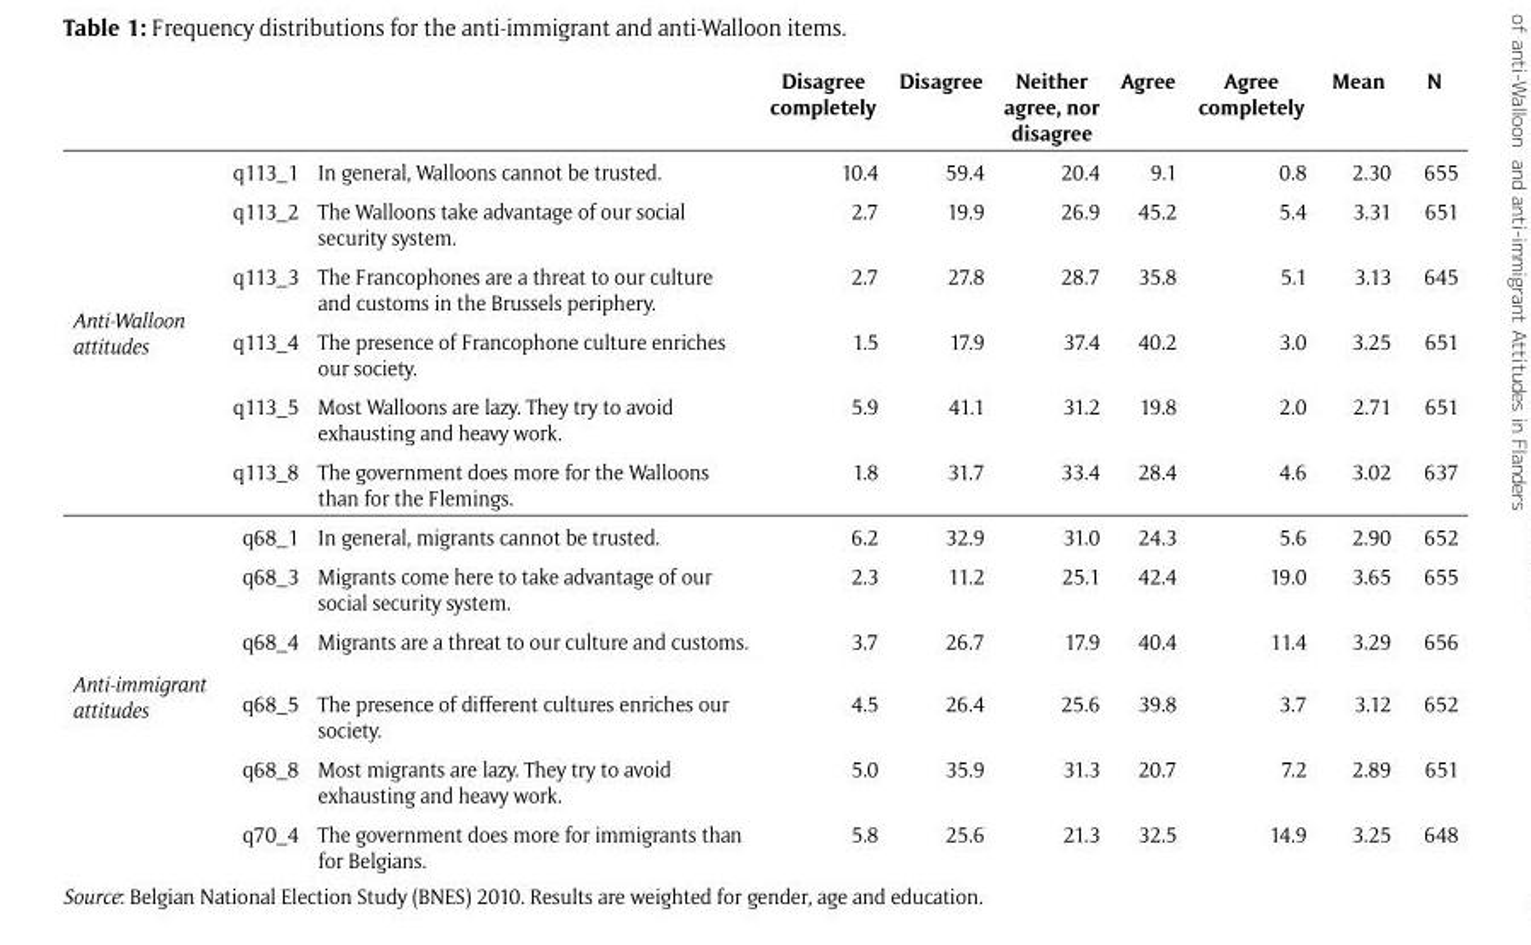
<table><thead><tr><td></td><td></td><td></td><td>Disagree completely</td><td>Disagree</td><td>Neither agree, nor disagree</td><td>Agree</td><td>Agree completely</td><td>Mean</td><td>N</td></tr></thead><tbody><tr><td rowspan="6">Anti-Walloon attitudes</td><td>q113_1</td><td>In general, Walloons cannot be trusted.</td><td>10.4</td><td>59.4</td><td>20.4</td><td>9.1</td><td>0.8</td><td>2.30</td><td>655</td></tr><tr><td>q113_2</td><td>The Walloons take advantage of our social security system.</td><td>2.7</td><td>19.9</td><td>26.9</td><td>45.2</td><td>5.4</td><td>3.31</td><td>651</td></tr><tr><td>q113_3</td><td>The Francophones are a threat to our culture and customs in the Brussels periphery.</td><td>2.7</td><td>27.8</td><td>28.7</td><td>35.8</td><td>5.1</td><td>3.13</td><td>645</td></tr><tr><td>q113_4</td><td>The presence of Francophone culture enriches our society.</td><td>1.5</td><td>17.9</td><td>37.4</td><td>40.2</td><td>3.0</td><td>3.25</td><td>651</td></tr><tr><td>q113_5</td><td>Most Walloons are lazy. They try to avoid exhausting and heavy work.</td><td>5.9</td><td>41.1</td><td>31.2</td><td>19.8</td><td>2.0</td><td>2.71</td><td>651</td></tr><tr><td>q113_8</td><td>The government does more for the Walloons than for the Flemings.</td><td>1.8</td><td>31.7</td><td>33.4</td><td>28.4</td><td>4.6</td><td>3.02</td><td>637</td></tr><tr><td rowspan="6">Anti-immigrant attitudes</td><td>q68_1</td><td>In general, migrants cannot be trusted.</td><td>6.2</td><td>32.9</td><td>31.0</td><td>24.3</td><td>5.6</td><td>2.90</td><td>652</td></tr><tr><td>q68_3</td><td>Migrants come here to take advantage of our social security system.</td><td>2.3</td><td>11.2</td><td>25.1</td><td>42.4</td><td>19.0</td><td>3.65</td><td>655</td></tr><tr><td>q68_4</td><td>Migrants are a threat to our culture and customs.</td><td>3.7</td><td>26.7</td><td>17.9</td><td>40.4</td><td>11.4</td><td>3.29</td><td>656</td></tr><tr><td>q68_5</td><td>The presence of different cultures enriches our society.</td><td>4.5</td><td>26.4</td><td>25.6</td><td>39.8</td><td>3.7</td><td>3.12</td><td>652</td></tr><tr><td>q68_8</td><td>Most migrants are lazy. They try to avoid exhausting and heavy work.</td><td>5.0</td><td>35.9</td><td>31.3</td><td>20.7</td><td>7.2</td><td>2.89</td><td>651</td></tr><tr><td>q70_4</td><td>The government does more for immigrants than for Belgians.</td><td>5.8</td><td>25.6</td><td>21.3</td><td>32.5</td><td>14.9</td><td>3.25</td><td>648</td></tr></tbody></table>